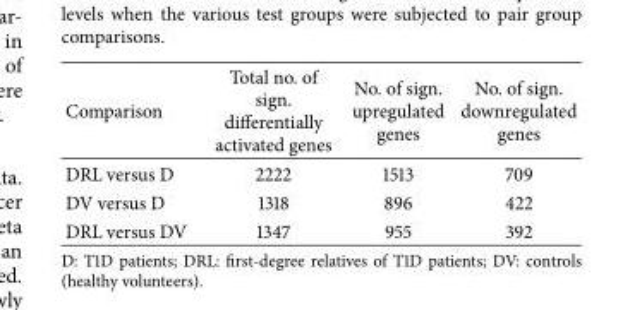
<table><thead><tr><td>Comparison</td><td>Total no. of sign. differentially activated genes</td><td>No. of sign. upregulated genes</td><td>No. of sign. downregulated genes</td></tr></thead><tbody><tr><td>DRL versus D</td><td>2222</td><td>1513</td><td>709</td></tr><tr><td>DV versus D</td><td>1318</td><td>896</td><td>422</td></tr><tr><td>DRL versus DV</td><td>1347</td><td>955</td><td>392</td></tr></tbody></table>